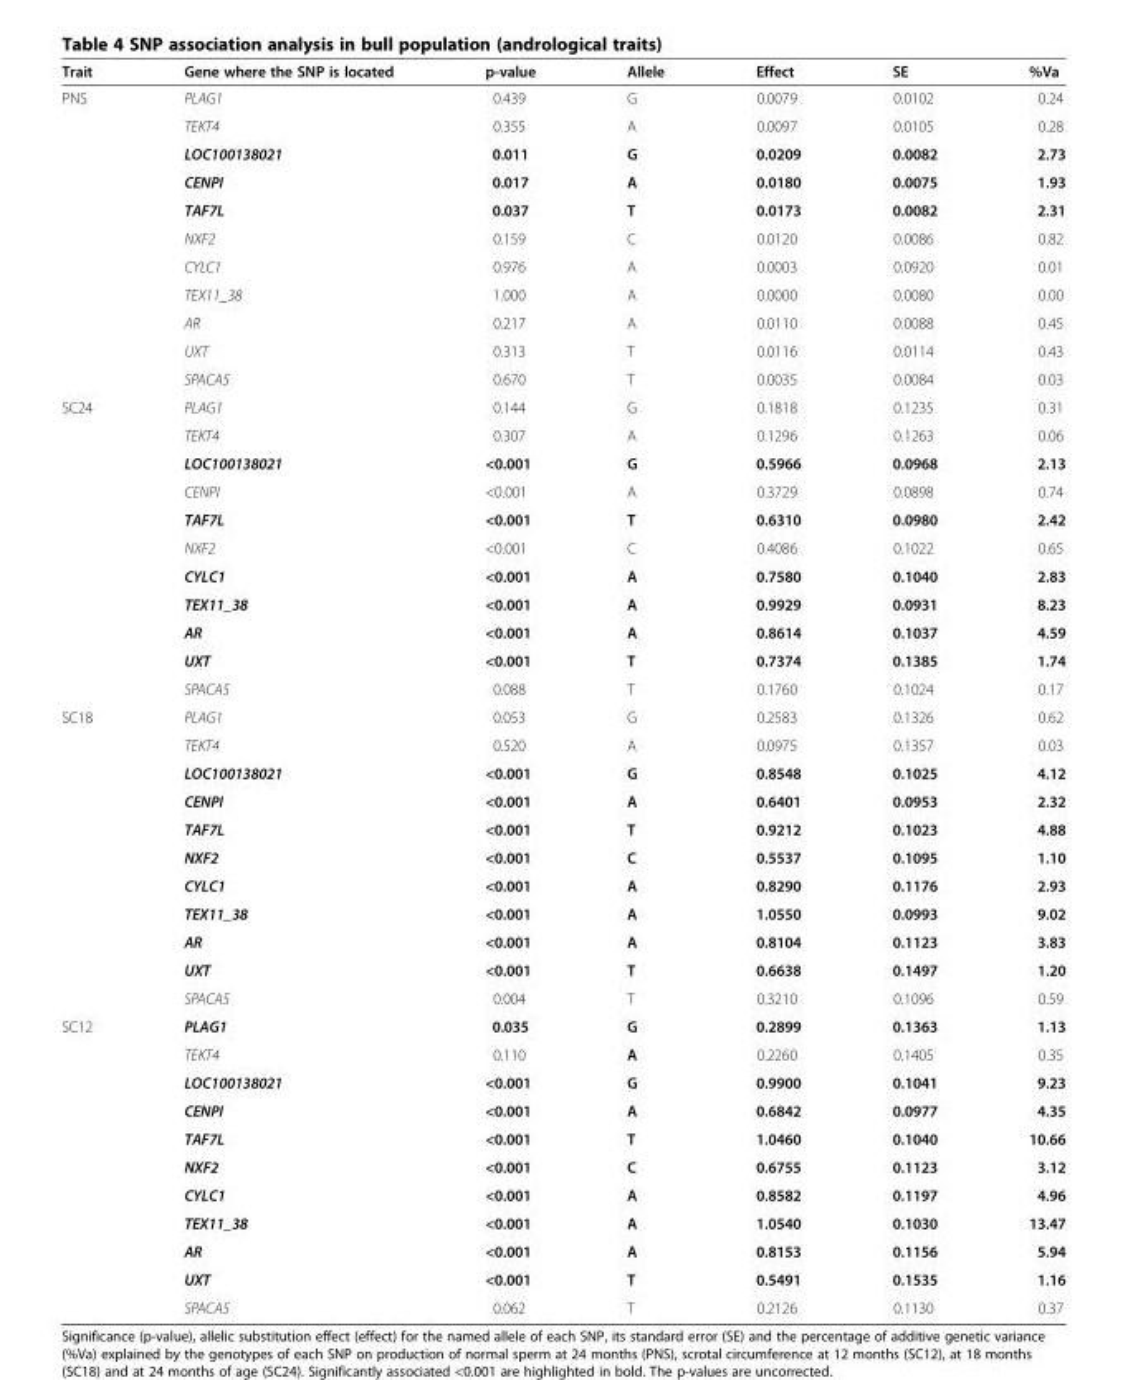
<table><thead><tr><td>Trait</td><td>Gene where the SNP is located</td><td>p-value</td><td>Allele</td><td>Effect</td><td>SE</td><td>%Va</td></tr></thead><tbody><tr><td rowspan="11">PNS</td><td>PLAG1</td><td>0.439</td><td>G</td><td>0.0079</td><td>0.0102</td><td>0.24</td></tr><tr><td>TEKT4</td><td>0.355</td><td>A</td><td>0.0097</td><td>0.0105</td><td>0.28</td></tr><tr><td>LOC100138021</td><td>0.011</td><td>G</td><td>0.0209</td><td>0.0082</td><td>2.73</td></tr><tr><td>CENPI</td><td>0.017</td><td>A</td><td>0.0180</td><td>0.0075</td><td>1.93</td></tr><tr><td>TAF7L</td><td>0.037</td><td>T</td><td>0.0173</td><td>0.0082</td><td>2.31</td></tr><tr><td>NXF2</td><td>0.159</td><td>C</td><td>0.0120</td><td>0.0086</td><td>0.82</td></tr><tr><td>CYLC1</td><td>0.976</td><td>A</td><td>0.0003</td><td>0.0920</td><td>0.01</td></tr><tr><td>TEX11_38</td><td>1.000</td><td>A</td><td>0.0000</td><td>0.0080</td><td>0.00</td></tr><tr><td>AR</td><td>0.217</td><td>A</td><td>0.0110</td><td>0.0088</td><td>0.45</td></tr><tr><td>UXT</td><td>0.313</td><td>T</td><td>0.0116</td><td>0.0114</td><td>0.43</td></tr><tr><td>SPACA5</td><td>0.670</td><td>T</td><td>0.0035</td><td>0.0084</td><td>0.03</td></tr><tr><td rowspan="11">SC24</td><td>PLAG1</td><td>0.144</td><td>G</td><td>0.1818</td><td>0.1235</td><td>0.31</td></tr><tr><td>TEKT4</td><td>0.307</td><td>A</td><td>0.1296</td><td>0.1263</td><td>0.06</td></tr><tr><td>LOC100138021</td><td>&lt;0.001</td><td>G</td><td>0.5966</td><td>0.0968</td><td>2.13</td></tr><tr><td>CENPI</td><td>&lt;0.001</td><td>A</td><td>0.3729</td><td>0.0898</td><td>0.74</td></tr><tr><td>TAF7L</td><td>&lt;0.001</td><td>T</td><td>0.6310</td><td>0.0980</td><td>2.42</td></tr><tr><td>NXF2</td><td>&lt;0.001</td><td>C</td><td>0.4086</td><td>0.1022</td><td>0.65</td></tr><tr><td>CYLC1</td><td>&lt;0.001</td><td>A</td><td>0.7580</td><td>0.1040</td><td>2.83</td></tr><tr><td>TEX11_38</td><td>&lt;0.001</td><td>A</td><td>0.9929</td><td>0.0931</td><td>8.23</td></tr><tr><td>AR</td><td>&lt;0.001</td><td>A</td><td>0.8614</td><td>0.1037</td><td>4.59</td></tr><tr><td>UXT</td><td>&lt;0.001</td><td>T</td><td>0.7374</td><td>0.1385</td><td>1.74</td></tr><tr><td>SPACA5</td><td>0.088</td><td>T</td><td>0.1760</td><td>0.1024</td><td>0.17</td></tr><tr><td rowspan="11">SC18</td><td>PLAG1</td><td>0.053</td><td>G</td><td>0.2583</td><td>0.1326</td><td>0.62</td></tr><tr><td>TEKT4</td><td>0.520</td><td>A</td><td>0.0975</td><td>0.1357</td><td>0.03</td></tr><tr><td>LOC100138021</td><td>&lt;0.001</td><td>G</td><td>0.8548</td><td>0.1025</td><td>4.12</td></tr><tr><td>CENPI</td><td>&lt;0.001</td><td>A</td><td>0.6401</td><td>0.0953</td><td>2.32</td></tr><tr><td>TAF7L</td><td>&lt;0.001</td><td>T</td><td>0.9212</td><td>0.1023</td><td>4.88</td></tr><tr><td>NXF2</td><td>&lt;0.001</td><td>C</td><td>0.5537</td><td>0.1095</td><td>1.10</td></tr><tr><td>CYLC1</td><td>&lt;0.001</td><td>A</td><td>0.8290</td><td>0.1176</td><td>2.93</td></tr><tr><td>TEX11_38</td><td>&lt;0.001</td><td>A</td><td>1.0550</td><td>0.0993</td><td>9.02</td></tr><tr><td>AR</td><td>&lt;0.001</td><td>A</td><td>0.8104</td><td>0.1123</td><td>3.83</td></tr><tr><td>UXT</td><td>&lt;0.001</td><td>T</td><td>0.6638</td><td>0.1497</td><td>1.20</td></tr><tr><td>SPACA5</td><td>0.004</td><td>T</td><td>0.3210</td><td>0.1096</td><td>0.59</td></tr><tr><td rowspan="11">SC12</td><td>PLAG1</td><td>0.035</td><td>G</td><td>0.2899</td><td>0.1363</td><td>1.13</td></tr><tr><td>TEKT4</td><td>0.110</td><td>A</td><td>0.2260</td><td>0.1405</td><td>0.35</td></tr><tr><td>LOC100138021</td><td>&lt;0.001</td><td>G</td><td>0.9900</td><td>0.1041</td><td>9.23</td></tr><tr><td>CENPI</td><td>&lt;0.001</td><td>A</td><td>0.6842</td><td>0.0977</td><td>4.35</td></tr><tr><td>TAF7L</td><td>&lt;0.001</td><td>T</td><td>1.0460</td><td>0.1040</td><td>10.66</td></tr><tr><td>NXF2</td><td>&lt;0.001</td><td>C</td><td>0.6755</td><td>0.1123</td><td>3.12</td></tr><tr><td>CYLC1</td><td>&lt;0.001</td><td>A</td><td>0.8582</td><td>0.1197</td><td>4.96</td></tr><tr><td>TEX11_38</td><td>&lt;0.001</td><td>A</td><td>1.0540</td><td>0.1030</td><td>13.47</td></tr><tr><td>AR</td><td>&lt;0.001</td><td>A</td><td>0.8153</td><td>0.1156</td><td>5.94</td></tr><tr><td>UXT</td><td>&lt;0.001</td><td>T</td><td>0.5491</td><td>0.1535</td><td>1.16</td></tr><tr><td>SPACA5</td><td>0.062</td><td>T</td><td>0.2126</td><td>0.1130</td><td>0.37</td></tr></tbody></table>